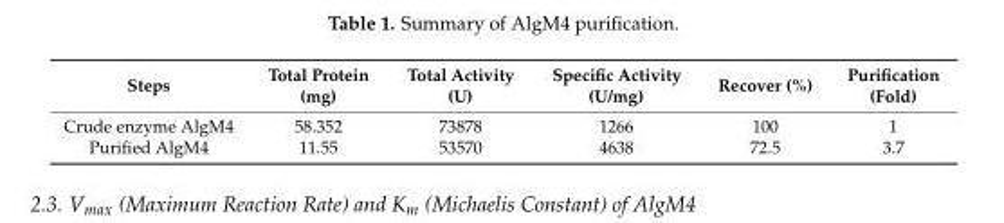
<table><thead><tr><td>Steps</td><td>Total Protein (mg)</td><td>Total Activity (U)</td><td>Specific Activity (U/mg)</td><td>Recover (%)</td><td>Purification (Fold)</td></tr></thead><tbody><tr><td>Crude enzyme AlgM4</td><td>58.352</td><td>73878</td><td>1266</td><td>100</td><td>1</td></tr><tr><td>Purified AlgM4</td><td>11.55</td><td>53570</td><td>4638</td><td>72.5</td><td>3.7</td></tr></tbody></table>